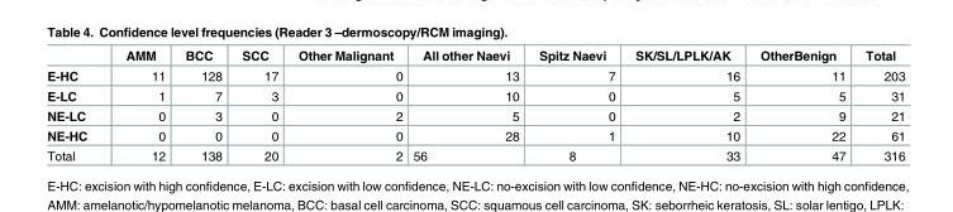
<table><thead><tr><td></td><td>AMM</td><td>BCC</td><td>SCC</td><td>Other Malignant</td><td>All other Naevi</td><td>Spitz Naevi</td><td>SK/SL/LPLK/AK</td><td>OtherBenign</td><td>Total</td></tr></thead><tbody><tr><td>E-HC</td><td>11</td><td>128</td><td>17</td><td>0</td><td>13</td><td>7</td><td>16</td><td>11</td><td>203</td></tr><tr><td>E-LC</td><td>1</td><td>7</td><td>3</td><td>0</td><td>10</td><td>0</td><td>5</td><td>5</td><td>31</td></tr><tr><td>NE-LC</td><td>0</td><td>3</td><td>0</td><td>2</td><td>5</td><td>0</td><td>2</td><td>9</td><td>21</td></tr><tr><td>NE-HC</td><td>0</td><td>0</td><td>0</td><td>0</td><td>28</td><td>1</td><td>10</td><td>22</td><td>61</td></tr><tr><td>Total</td><td>12</td><td>138</td><td>20</td><td>2</td><td>56</td><td>8</td><td>33</td><td>47</td><td>316</td></tr></tbody></table>